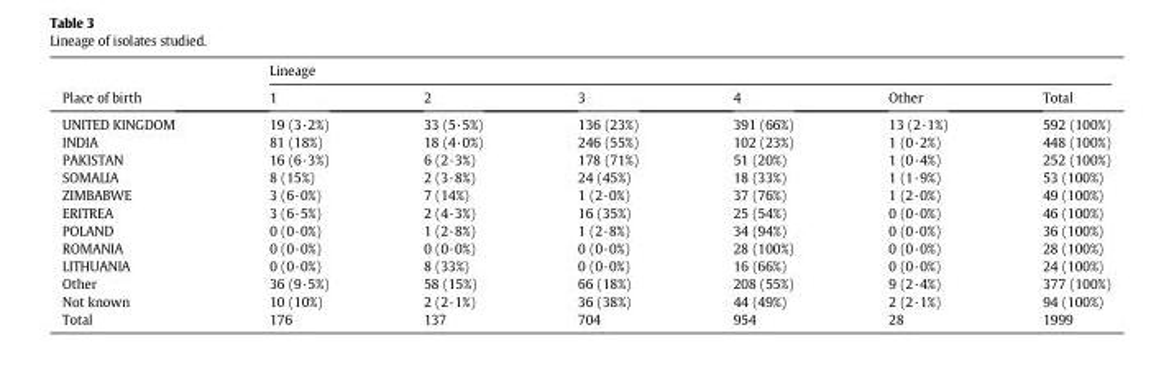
<table><thead><tr><td rowspan="2">Place of birth</td><td colspan="6">Lineage</td></tr><tr><td>1</td><td>2</td><td>3</td><td>4</td><td>Other</td><td>Total</td></tr></thead><tbody><tr><td>UNITED KINGDOM</td><td>19 (3·2%)</td><td>33 (5·5%)</td><td>136 (23%)</td><td>391 (66%)</td><td>13 (2·1%)</td><td>592 (100%)</td></tr><tr><td>INDIA</td><td>81 (18%)</td><td>18 (4·0%)</td><td>246 (55%)</td><td>102 (23%)</td><td>1 (0·2%)</td><td>448 (100%)</td></tr><tr><td>PAKISTAN</td><td>16 (6·3%)</td><td>6 (2·3%)</td><td>178 (71%)</td><td>51 (20%)</td><td>1 (0·4%)</td><td>252 (100%)</td></tr><tr><td>SOMALIA</td><td>8 (15%)</td><td>2 (3·8%)</td><td>24 (45%)</td><td>18 (33%)</td><td>1 (1·9%)</td><td>53 (100%)</td></tr><tr><td>ZIMBABWE</td><td>3 (6·0%)</td><td>7 (14%)</td><td>1 (2·0%)</td><td>37 (76%)</td><td>1 (2·0%)</td><td>49 (100%)</td></tr><tr><td>ERITREA</td><td>3 (6·5%)</td><td>2 (4·3%)</td><td>16 (35%)</td><td>25 (54%)</td><td>0 (0·0%)</td><td>46 (100%)</td></tr><tr><td>POLAND</td><td>0 (0·0%)</td><td>1 (2·8%)</td><td>1 (2·8%)</td><td>34 (94%)</td><td>0 (0·0%)</td><td>36 (100%)</td></tr><tr><td>ROMANIA</td><td>0 (0·0%)</td><td>0 (0·0%)</td><td>0 (0·0%)</td><td>28 (100%)</td><td>0 (0·0%)</td><td>28 (100%)</td></tr><tr><td>LITHUANIA</td><td>0 (0·0%)</td><td>8 (33%)</td><td>0 (0·0%)</td><td>16 (66%)</td><td>0 (0·0%)</td><td>24 (100%)</td></tr><tr><td>Other</td><td>36 (9·5%)</td><td>58 (15%)</td><td>66 (18%)</td><td>208 (55%)</td><td>9 (2·4%)</td><td>377 (100%)</td></tr><tr><td>Not known</td><td>10 (10%)</td><td>2 (2·1%)</td><td>36 (38%)</td><td>44 (49%)</td><td>2 (2·1%)</td><td>94 (100%)</td></tr><tr><td>Total</td><td>176</td><td>137</td><td>704</td><td>954</td><td>28</td><td>1999</td></tr></tbody></table>